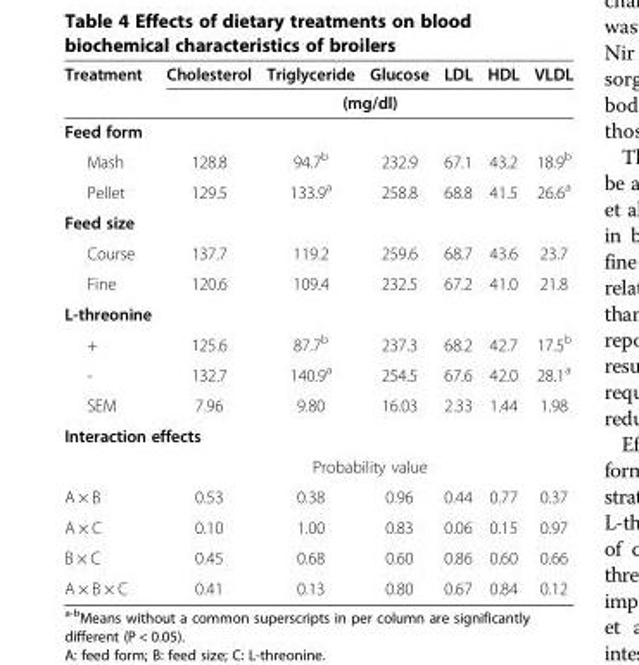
<table><thead><tr><td rowspan="2">Treatment</td><td>Cholesterol</td><td>Triglyceride</td><td>Glucose</td><td>LDL</td><td>HDL</td><td>VLDL</td></tr><tr><td colspan="6">(mg/dl)</td></tr></thead><tbody><tr><td colspan="7">Feed form</td></tr><tr><td>Mash</td><td>128.8</td><td>94.7<sup>b</sup></td><td>232.9</td><td>67.1</td><td>43.2</td><td>18.9<sup>b</sup></td></tr><tr><td>Pellet</td><td>129.5</td><td>133.9<sup>a</sup></td><td>258.8</td><td>68.8</td><td>41.5</td><td>26.6<sup>a</sup></td></tr><tr><td colspan="7">Feed size</td></tr><tr><td>Course</td><td>137.7</td><td>119.2</td><td>259.6</td><td>68.7</td><td>43.6</td><td>23.7</td></tr><tr><td>Fine</td><td>120.6</td><td>109.4</td><td>232.5</td><td>67.2</td><td>41.0</td><td>21.8</td></tr><tr><td colspan="7">L-threonine</td></tr><tr><td>+</td><td>125.6</td><td>87.7<sup>b</sup></td><td>237.3</td><td>68.2</td><td>42.7</td><td>17.5<sup>b</sup></td></tr><tr><td>-</td><td>132.7</td><td>140.9<sup>a</sup></td><td>254.5</td><td>67.6</td><td>42.0</td><td>28.1<sup>a</sup></td></tr><tr><td>SEM</td><td>7.96</td><td>9.80</td><td>16.03</td><td>2.33</td><td>1.44</td><td>1.98</td></tr><tr><td colspan="7">Interaction effects</td></tr><tr><td></td><td colspan="6">Probability value</td></tr><tr><td>A × B</td><td>0.53</td><td>0.38</td><td>0.96</td><td>0.44</td><td>0.77</td><td>0.37</td></tr><tr><td>A × C</td><td>0.10</td><td>1.00</td><td>0.83</td><td>0.06</td><td>0.15</td><td>0.97</td></tr><tr><td>B × C</td><td>0.45</td><td>0.68</td><td>0.60</td><td>0.86</td><td>0.60</td><td>0.66</td></tr><tr><td>A × B × C</td><td>0.41</td><td>0.13</td><td>0.80</td><td>0.67</td><td>0.84</td><td>0.12</td></tr></tbody></table>